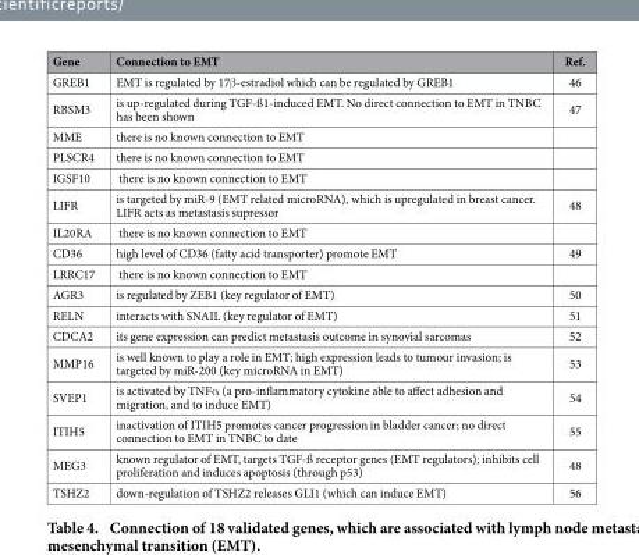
<table><thead><tr><td>Gene</td><td>Connection to EMT</td><td>Ref.</td></tr></thead><tbody><tr><td>GREB1</td><td>EMT is regulated by 17β -estradiol which can be regulated by GREB1</td><td>46</td></tr><tr><td>RBSM3</td><td>is up-regulated during TGF-ß1-induced EMT. No direct connection to EMT in TNBC has been shown</td><td>47</td></tr><tr><td>MME</td><td>there is no known connection to EMT</td><td></td></tr><tr><td>PLSCR4</td><td>there is no known connection to EMT</td><td></td></tr><tr><td>IGSF10</td><td>there is no known connection to EMT</td><td></td></tr><tr><td>LIFR</td><td>is targeted by miR-9 (EMT related microRNA), which is upregulated in breast cancer. LIFR acts as metastasis supressor</td><td>48</td></tr><tr><td>IL20RA</td><td>there is no known connection to EMT</td><td></td></tr><tr><td>CD36</td><td>high level of CD36 (fatty acid transporter) promote EMT</td><td>49</td></tr><tr><td>LRRC17</td><td>there is no known connection to EMT</td><td></td></tr><tr><td>AGR3</td><td>is regulated by ZEB1 (key regulator of EMT)</td><td>50</td></tr><tr><td>RELN</td><td>interacts with SNAIL (key regulator of EMT)</td><td>51</td></tr><tr><td>CDCA2</td><td>its gene expression can predict metastasis outcome in synovial sarcomas</td><td>52</td></tr><tr><td>MMP16</td><td>is well known to play a role in EMT; high expression leads to tumour invasion; is targeted by miR-200 (key microRNA in EMT)</td><td>53</td></tr><tr><td>SVEP1</td><td>is activated by TNFα (a pro-inflammatory cytokine able to affect adhesion and migration, and to induce EMT)</td><td>54</td></tr><tr><td>ITIH5</td><td>inactivation of ITIH5 promotes cancer progression in bladder cancer; no direct connection to EMT in TNBC to date</td><td>55</td></tr><tr><td>MEG3</td><td>known regulator of EMT, targets TGF-ß receptor genes (EMT regulators); inhibits cell proliferation and induces apoptosis (through p53)</td><td>48</td></tr><tr><td>TSHZ2</td><td>down-regulation of TSHZ2 releases GLI1 (which can induce EMT)</td><td>56</td></tr></tbody></table>